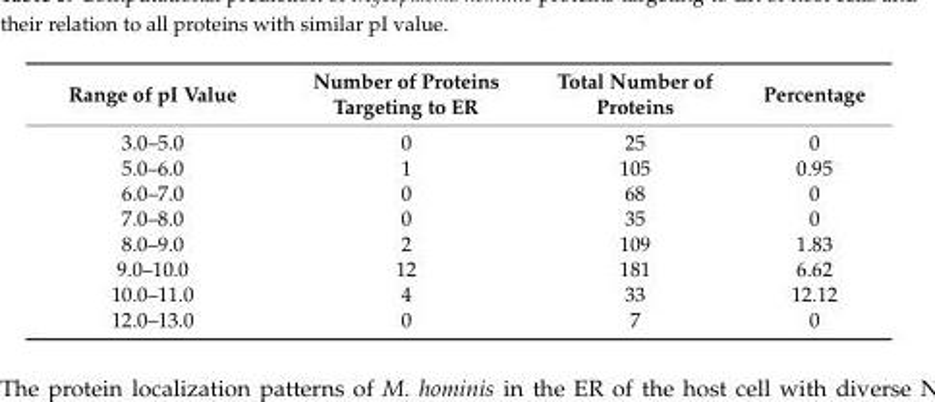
<table><thead><tr><td>Range of pI Value</td><td>Number of Proteins Targeting to ER</td><td>Total Number of Proteins</td><td>Percentage</td></tr></thead><tbody><tr><td>3.0–5.0</td><td>0</td><td>25</td><td>0</td></tr><tr><td>5.0–6.0</td><td>1</td><td>105</td><td>0.95</td></tr><tr><td>6.0–7.0</td><td>0</td><td>68</td><td>0</td></tr><tr><td>7.0–8.0</td><td>0</td><td>35</td><td>0</td></tr><tr><td>8.0–9.0</td><td>2</td><td>109</td><td>1.83</td></tr><tr><td>9.0–10.0</td><td>12</td><td>181</td><td>6.62</td></tr><tr><td>10.0–11.0</td><td>4</td><td>33</td><td>12.12</td></tr><tr><td>12.0–13.0</td><td>0</td><td>7</td><td>0</td></tr></tbody></table>